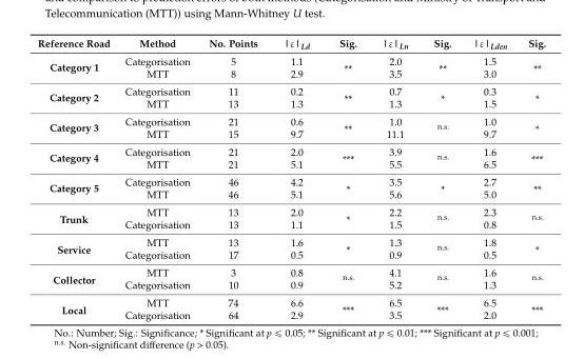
<table><thead><tr><td>Reference Road</td><td>Method</td><td>No. Points</td><td>|ε|<sub>Ld</sub></td><td>Sig.</td><td>|ε|<sub>Ln</sub></td><td>Sig.</td><td>|ε|<sub>Lden</sub></td><td>Sig.</td></tr></thead><tbody><tr><td rowspan="2">Category 1</td><td>Categorisation</td><td>5</td><td>1.1</td><td rowspan="2">**</td><td>2.0</td><td rowspan="2">**</td><td>1.5</td><td rowspan="2">**</td></tr><tr><td>MTT</td><td>8</td><td>2.9</td><td>3.5</td><td>3.0</td></tr><tr><td rowspan="2">Category 2</td><td>Categorisation</td><td>11</td><td>0.2</td><td rowspan="2">**</td><td>0.7</td><td rowspan="2">*</td><td>0.3</td><td rowspan="2">*</td></tr><tr><td>MTT</td><td>13</td><td>1.3</td><td>1.3</td><td>1.5</td></tr><tr><td rowspan="2">Category 3</td><td>Categorisation</td><td>21</td><td>0.6</td><td rowspan="2">**</td><td>1.0</td><td rowspan="2"><sup>n.s.</sup></td><td>1.0</td><td rowspan="2">*</td></tr><tr><td>MTT</td><td>15</td><td>9.7</td><td>11.1</td><td>9.7</td></tr><tr><td rowspan="2">Category 4</td><td>Categorisation</td><td>21</td><td>2.0</td><td rowspan="2">***</td><td>3.9</td><td rowspan="2"><sup>n.s.</sup></td><td>1.6</td><td rowspan="2">***</td></tr><tr><td>MTT</td><td>21</td><td>5.1</td><td>5.5</td><td>6.5</td></tr><tr><td rowspan="2">Category 5</td><td>Categorisation</td><td>46</td><td>4.2</td><td rowspan="2">*</td><td>3.5</td><td rowspan="2">*</td><td>2.7</td><td rowspan="2">**</td></tr><tr><td>MTT</td><td>46</td><td>5.1</td><td>5.6</td><td>5.0</td></tr><tr><td rowspan="2">Trunk</td><td>MTT</td><td>13</td><td>2.0</td><td rowspan="2">*</td><td>2.2</td><td rowspan="2"><sup>n.s.</sup></td><td>2.3</td><td rowspan="2"><sup>n.s.</sup></td></tr><tr><td>Categorisation</td><td>13</td><td>1.1</td><td>1.5</td><td>0.8</td></tr><tr><td rowspan="2">Service</td><td>MTT</td><td>13</td><td>1.6</td><td rowspan="2">*</td><td>1.3</td><td rowspan="2"><sup>n.s.</sup></td><td>1.8</td><td rowspan="2">*</td></tr><tr><td>Categorisation</td><td>17</td><td>0.5</td><td>0.9</td><td>0.5</td></tr><tr><td rowspan="2">Collector</td><td>MTT</td><td>3</td><td>0.8</td><td rowspan="2"><sup>n.s.</sup></td><td>4.1</td><td rowspan="2"><sup>n.s.</sup></td><td>1.6</td><td rowspan="2"><sup>n.s.</sup></td></tr><tr><td>Categorisation</td><td>10</td><td>0.9</td><td>5.2</td><td>1.3</td></tr><tr><td rowspan="2">Local</td><td>MTT</td><td>74</td><td>6.6</td><td rowspan="2">***</td><td>6.5</td><td rowspan="2">***</td><td>6.5</td><td rowspan="2">***</td></tr><tr><td>Categorisation</td><td>64</td><td>2.9</td><td>3.5</td><td>2.0</td></tr></tbody></table>